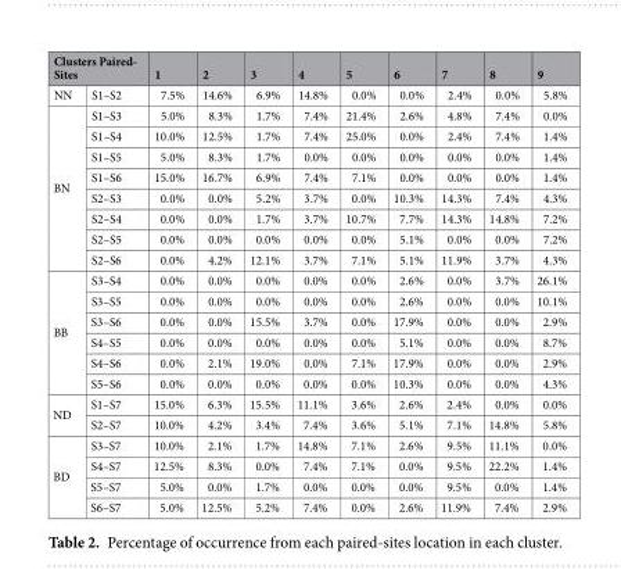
<table><thead><tr><td colspan="2">Clusters Paired- Sites</td><td rowspan="2">1 7.5%</td><td rowspan="2">2 14.6%</td><td rowspan="2">3 6.9%</td><td rowspan="2">4 14.8%</td><td rowspan="2">5 0.0%</td><td rowspan="2">6 0.0%</td><td rowspan="2">7 2.4%</td><td rowspan="2">8 0.0%</td><td rowspan="2">9 5.8%</td></tr><tr><td>NN</td><td>S1–S2</td></tr></thead><tbody><tr><td rowspan="8">BN</td><td>S1–S3</td><td>5.0%</td><td>8.3%</td><td>1.7%</td><td>7.4%</td><td>21.4%</td><td>2.6%</td><td>4.8%</td><td>7.4%</td><td>0.0%</td></tr><tr><td>S1–S4</td><td>10.0%</td><td>12.5%</td><td>1.7%</td><td>7.4%</td><td>25.0%</td><td>0.0%</td><td>2.4%</td><td>7.4%</td><td>1.4%</td></tr><tr><td>S1–S5</td><td>5.0%</td><td>8.3%</td><td>1.7%</td><td>0.0%</td><td>0.0%</td><td>0.0%</td><td>0.0%</td><td>0.0%</td><td>1.4%</td></tr><tr><td>S1–S6</td><td>15.0%</td><td>16.7%</td><td>6.9%</td><td>7.4%</td><td>7.1%</td><td>0.0%</td><td>0.0%</td><td>0.0%</td><td>1.4%</td></tr><tr><td>S2–S3</td><td>0.0%</td><td>0.0%</td><td>5.2%</td><td>3.7%</td><td>0.0%</td><td>10.3%</td><td>14.3%</td><td>7.4%</td><td>4.3%</td></tr><tr><td>S2–S4</td><td>0.0%</td><td>0.0%</td><td>1.7%</td><td>3.7%</td><td>10.7%</td><td>7.7%</td><td>14.3%</td><td>14.8%</td><td>7.2%</td></tr><tr><td>S2–S5</td><td>0.0%</td><td>0.0%</td><td>0.0%</td><td>0.0%</td><td>0.0%</td><td>5.1%</td><td>0.0%</td><td>0.0%</td><td>7.2%</td></tr><tr><td>S2–S6</td><td>0.0%</td><td>4.2%</td><td>12.1%</td><td>3.7%</td><td>7.1%</td><td>5.1%</td><td>11.9%</td><td>3.7%</td><td>4.3%</td></tr><tr><td rowspan="6">BB</td><td>S3–S4</td><td>0.0%</td><td>0.0%</td><td>0.0%</td><td>0.0%</td><td>0.0%</td><td>2.6%</td><td>0.0%</td><td>3.7%</td><td>26.1%</td></tr><tr><td>S3–S5</td><td>0.0%</td><td>0.0%</td><td>0.0%</td><td>0.0%</td><td>0.0%</td><td>2.6%</td><td>0.0%</td><td>0.0%</td><td>10.1%</td></tr><tr><td>S3–S6</td><td>0.0%</td><td>0.0%</td><td>15.5%</td><td>3.7%</td><td>0.0%</td><td>17.9%</td><td>0.0%</td><td>0.0%</td><td>2.9%</td></tr><tr><td>S4–S5</td><td>0.0%</td><td>0.0%</td><td>0.0%</td><td>0.0%</td><td>0.0%</td><td>5.1%</td><td>0.0%</td><td>0.0%</td><td>8.7%</td></tr><tr><td>S4–S6</td><td>0.0%</td><td>2.1%</td><td>19.0%</td><td>0.0%</td><td>7.1%</td><td>17.9%</td><td>0.0%</td><td>0.0%</td><td>2.9%</td></tr><tr><td>S5–S6</td><td>0.0%</td><td>0.0%</td><td>0.0%</td><td>0.0%</td><td>0.0%</td><td>10.3%</td><td>0.0%</td><td>0.0%</td><td>4.3%</td></tr><tr><td rowspan="2">ND</td><td>S1–S7</td><td>15.0%</td><td>6.3%</td><td>15.5%</td><td>11.1%</td><td>3.6%</td><td>2.6%</td><td>2.4%</td><td>0.0%</td><td>0.0%</td></tr><tr><td>S2–S7</td><td>10.0%</td><td>4.2%</td><td>3.4%</td><td>7.4%</td><td>3.6%</td><td>5.1%</td><td>7.1%</td><td>14.8%</td><td>5.8%</td></tr><tr><td rowspan="4">BD</td><td>S3–S7</td><td>10.0%</td><td>2.1%</td><td>1.7%</td><td>14.8%</td><td>7.1%</td><td>2.6%</td><td>9.5%</td><td>11.1%</td><td>0.0%</td></tr><tr><td>S4–S7</td><td>12.5%</td><td>8.3%</td><td>0.0%</td><td>7.4%</td><td>7.1%</td><td>0.0%</td><td>9.5%</td><td>22.2%</td><td>1.4%</td></tr><tr><td>S5–S7</td><td>5.0%</td><td>0.0%</td><td>1.7%</td><td>0.0%</td><td>0.0%</td><td>0.0%</td><td>9.5%</td><td>0.0%</td><td>1.4%</td></tr><tr><td>S6–S7</td><td>5.0%</td><td>12.5%</td><td>5.2%</td><td>7.4%</td><td>0.0%</td><td>2.6%</td><td>11.9%</td><td>7.4%</td><td>2.9%</td></tr></tbody></table>